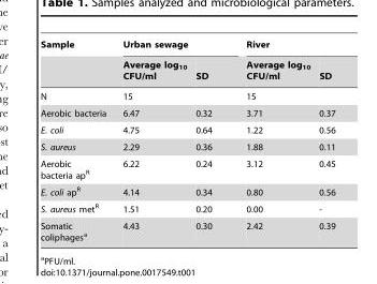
<table><thead><tr><td rowspan="2">Sample</td><td colspan="2">Urban sewage</td><td colspan="2">River</td></tr><tr><td>Average log<sub>10</sub> CFU/ml</td><td>SD</td><td>Average log<sub>10</sub> CFU/ml</td><td>SD</td></tr></thead><tbody><tr><td>N</td><td>15</td><td></td><td>15</td><td></td></tr><tr><td>Aerobic bacteria</td><td>6.47</td><td>0.32</td><td>3.71</td><td>0.37</td></tr><tr><td>E. coli</td><td>4.75</td><td>0.64</td><td>1.22</td><td>0.56</td></tr><tr><td>S. aureus</td><td>2.29</td><td>0.36</td><td>1.88</td><td>0.11</td></tr><tr><td>Aerobic bacteria ap<sup>R</sup></td><td>6.22</td><td>0.24</td><td>3.12</td><td>0.45</td></tr><tr><td>E. coli ap<sup>R</sup></td><td>4.14</td><td>0.34</td><td>0.80</td><td>0.56</td></tr><tr><td>S. aureus met<sup>R</sup></td><td>1.51</td><td>0.20</td><td>0.00</td><td>-</td></tr><tr><td>Somatic coliphages<sup>a</sup></td><td>4.43</td><td>0.30</td><td>2.42</td><td>0.39</td></tr></tbody></table>